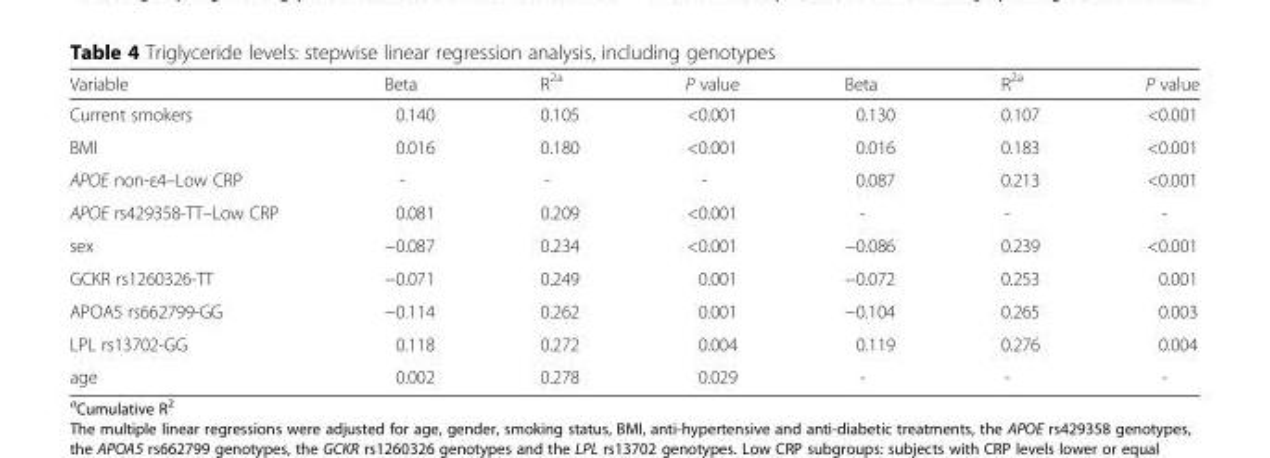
<table><thead><tr><td>Variable</td><td>Beta</td><td>R<sup>2a</sup></td><td>P value</td><td>Beta</td><td>R<sup>2a</sup></td><td>P value</td></tr></thead><tbody><tr><td>Current smokers</td><td>0.140</td><td>0.105</td><td>&lt;0.001</td><td>0.130</td><td>0.107</td><td>&lt;0.001</td></tr><tr><td>BMI</td><td>0.016</td><td>0.180</td><td>&lt;0.001</td><td>0.016</td><td>0.183</td><td>&lt;0.001</td></tr><tr><td>APOE non-ε4–Low CRP</td><td>-</td><td>-</td><td>-</td><td>0.087</td><td>0.213</td><td>&lt;0.001</td></tr><tr><td>APOE rs429358-TT–Low CRP</td><td>0.081</td><td>0.209</td><td>&lt;0.001</td><td>-</td><td>-</td><td>-</td></tr><tr><td>sex</td><td>−0.087</td><td>0.234</td><td>&lt;0.001</td><td>−0.086</td><td>0.239</td><td>&lt;0.001</td></tr><tr><td>GCKR rs1260326-TT</td><td>−0.071</td><td>0.249</td><td>0.001</td><td>−0.072</td><td>0.253</td><td>0.001</td></tr><tr><td>APOA5 rs662799-GG</td><td>−0.114</td><td>0.262</td><td>0.001</td><td>−0.104</td><td>0.265</td><td>0.003</td></tr><tr><td>LPL rs13702-GG</td><td>0.118</td><td>0.272</td><td>0.004</td><td>0.119</td><td>0.276</td><td>0.004</td></tr><tr><td>age</td><td>0.002</td><td>0.278</td><td>0.029</td><td>-</td><td>-</td><td>-</td></tr></tbody></table>